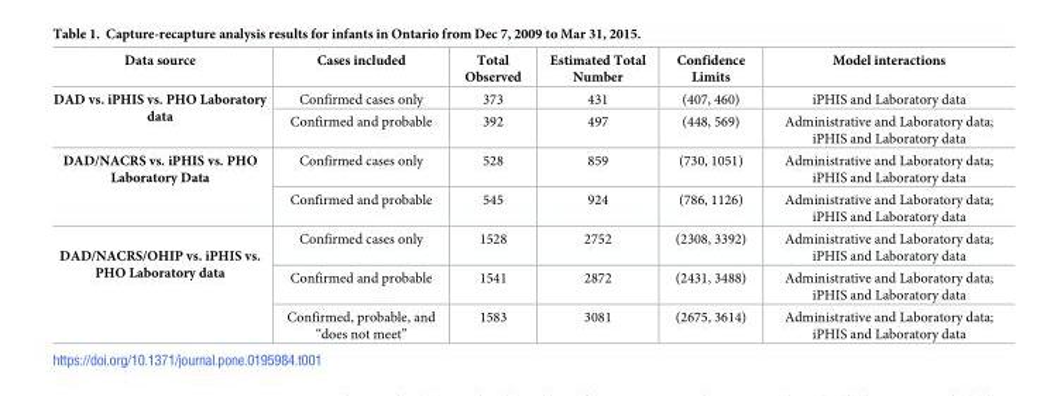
<table><thead><tr><td>Data source</td><td>Cases included</td><td>Total Observed</td><td>Estimated Total Number</td><td>Confidence Limits</td><td>Model interactions</td></tr></thead><tbody><tr><td rowspan="2">DAD vs. iPHIS vs. PHO Laboratory data</td><td>Confirmed cases only</td><td>373</td><td>431</td><td>(407, 460)</td><td>iPHIS and Laboratory data</td></tr><tr><td>Confirmed and probable</td><td>392</td><td>497</td><td>(448, 569)</td><td>Administrative and Laboratory data; iPHIS and Laboratory data</td></tr><tr><td rowspan="2">DAD/NACRS vs. iPHIS vs. PHO Laboratory Data</td><td>Confirmed cases only</td><td>528</td><td>859</td><td>(730, 1051)</td><td>Administrative and Laboratory data; iPHIS and Laboratory data</td></tr><tr><td>Confirmed and probable</td><td>545</td><td>924</td><td>(786, 1126)</td><td>Administrative and Laboratory data; iPHIS and Laboratory data</td></tr><tr><td rowspan="3">DAD/NACRS/OHIP vs. iPHIS vs. PHO Laboratory data</td><td>Confirmed cases only</td><td>1528</td><td>2752</td><td>(2308, 3392)</td><td>Administrative and Laboratory data; iPHIS and Laboratory data</td></tr><tr><td>Confirmed and probable</td><td>1541</td><td>2872</td><td>(2431, 3488)</td><td>Administrative and Laboratory data; iPHIS and Laboratory data</td></tr><tr><td>Confirmed, probable, and “does not meet”</td><td>1583</td><td>3081</td><td>(2675, 3614)</td><td>Administrative and Laboratory data; iPHIS and Laboratory data</td></tr></tbody></table>